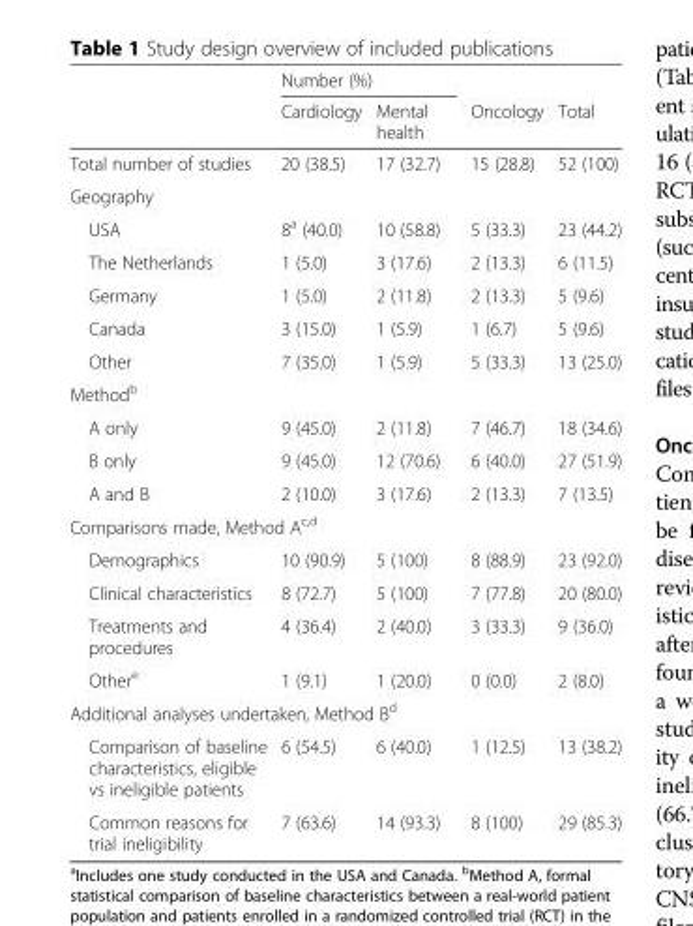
<table><thead><tr><td rowspan="2"></td><td colspan="2">Number (%)</td><td rowspan="2">Oncology</td><td rowspan="2">Total</td></tr><tr><td>Cardiology</td><td>Mental health</td></tr></thead><tbody><tr><td>Total number of studies</td><td>20 (38.5)</td><td>17 (32.7)</td><td>15 (28.8)</td><td>52 (100)</td></tr><tr><td colspan="5">Geography</td></tr><tr><td>USA</td><td>8<sup>a</sup> (40.0)</td><td>10 (58.8)</td><td>5 (33.3)</td><td>23 (44.2)</td></tr><tr><td>The Netherlands</td><td>1 (5.0)</td><td>3 (17.6)</td><td>2 (13.3)</td><td>6 (11.5)</td></tr><tr><td>Germany</td><td>1 (5.0)</td><td>2 (11.8)</td><td>2 (13.3)</td><td>5 (9.6)</td></tr><tr><td>Canada</td><td>3 (15.0)</td><td>1 (5.9)</td><td>1 (6.7)</td><td>5 (9.6)</td></tr><tr><td>Other</td><td>7 (35.0)</td><td>1 (5.9)</td><td>5 (33.3)</td><td>13 (25.0)</td></tr><tr><td colspan="5">Method<sup>b</sup></td></tr><tr><td>A only</td><td>9 (45.0)</td><td>2 (11.8)</td><td>7 (46.7)</td><td>18 (34.6)</td></tr><tr><td>B only</td><td>9 (45.0)</td><td>12 (70.6)</td><td>6 (40.0)</td><td>27 (51.9)</td></tr><tr><td>A and B</td><td>2 (10.0)</td><td>3 (17.6)</td><td>2 (13.3)</td><td>7 (13.5)</td></tr><tr><td colspan="5">Comparisons made, Method A<sup>c,d</sup></td></tr><tr><td>Demographics</td><td>10 (90.9)</td><td>5 (100)</td><td>8 (88.9)</td><td>23 (92.0)</td></tr><tr><td>Clinical characteristics</td><td>8 (72.7)</td><td>5 (100)</td><td>7 (77.8)</td><td>20 (80.0)</td></tr><tr><td>Treatments and procedures</td><td>4 (36.4)</td><td>2 (40.0)</td><td>3 (33.3)</td><td>9 (36.0)</td></tr><tr><td>Other<sup>e</sup></td><td>1 (9.1)</td><td>1 (20.0)</td><td>0 (0.0)</td><td>2 (8.0)</td></tr><tr><td colspan="5">Additional analyses undertaken, Method B<sup>d</sup></td></tr><tr><td>Comparison of baseline characteristics, eligible vs ineligible patients</td><td>6 (54.5)</td><td>6 (40.0)</td><td>1 (12.5)</td><td>13 (38.2)</td></tr><tr><td>Common reasons for trial ineligibility</td><td>7 (63.6)</td><td>14 (93.3)</td><td>8 (100)</td><td>29 (85.3)</td></tr></tbody></table>